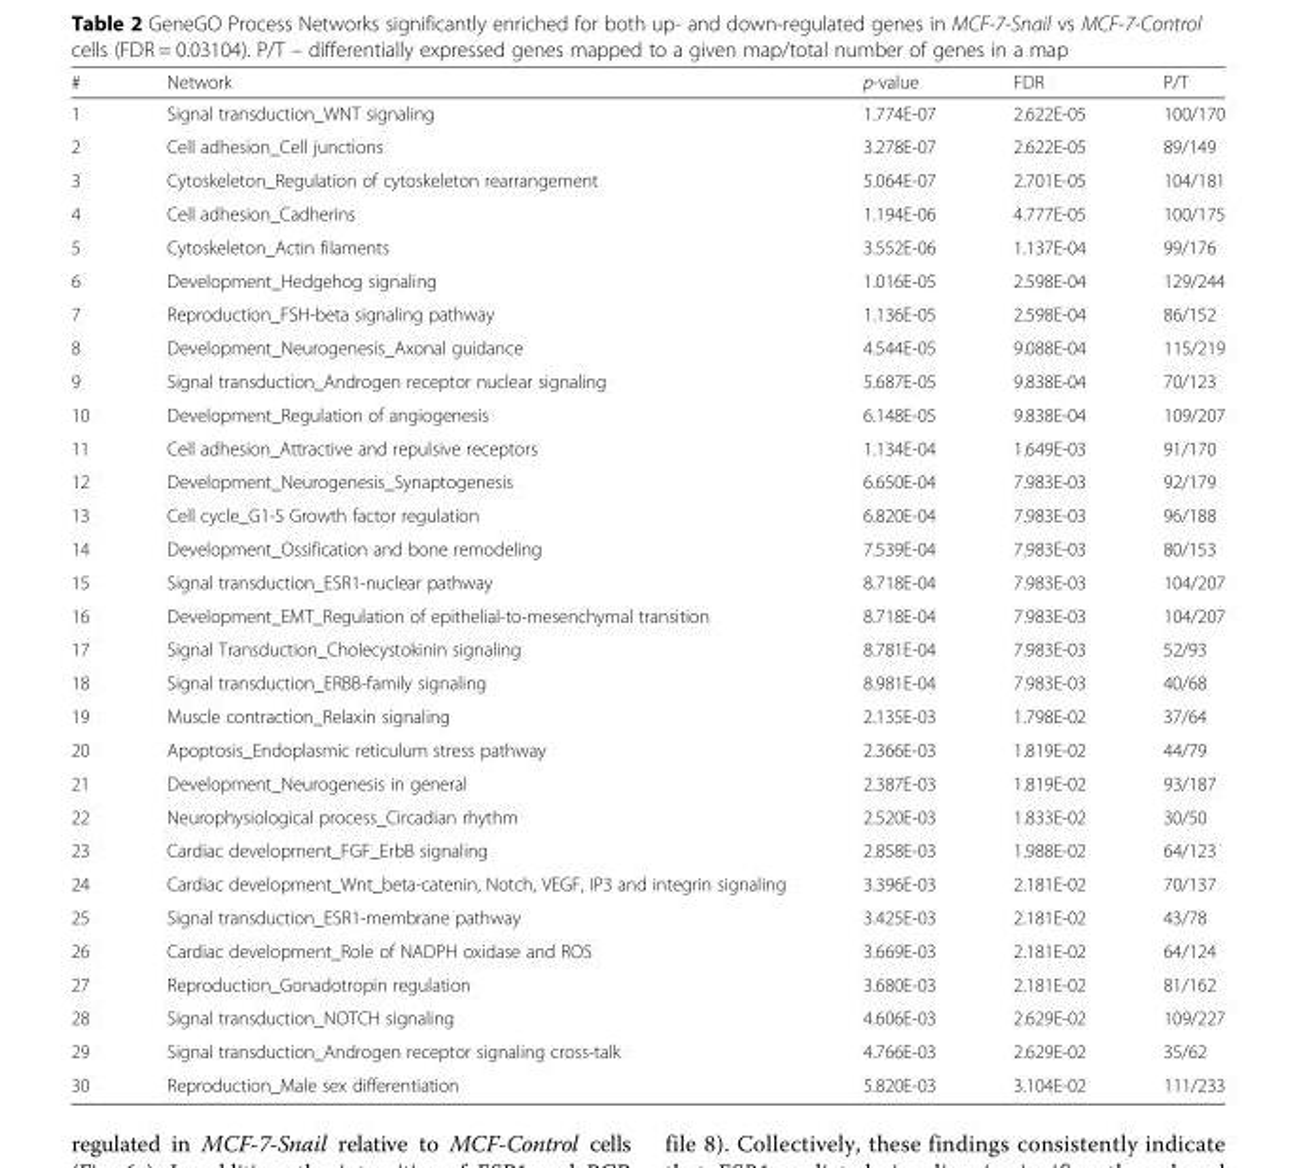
<table><thead><tr><td>#</td><td>Network</td><td>p-value</td><td>FDR</td><td>P/T</td></tr></thead><tbody><tr><td>1</td><td>Signal transduction_WNT signaling</td><td>1.774E-07</td><td>2.622E-05</td><td>100/170</td></tr><tr><td>2</td><td>Cell adhesion_Cell junctions</td><td>3.278E-07</td><td>2.622E-05</td><td>89/149</td></tr><tr><td>3</td><td>Cytoskeleton_Regulation of cytoskeleton rearrangement</td><td>5.064E-07</td><td>2.701E-05</td><td>104/181</td></tr><tr><td>4</td><td>Cell adhesion_Cadherins</td><td>1.194E-06</td><td>4.777E-05</td><td>100/175</td></tr><tr><td>5</td><td>Cytoskeleton_Actin filaments</td><td>3.552E-06</td><td>1.137E-04</td><td>99/176</td></tr><tr><td>6</td><td>Development_Hedgehog signaling</td><td>1.016E-05</td><td>2.598E-04</td><td>129/244</td></tr><tr><td>7</td><td>Reproduction_FSH-beta signaling pathway</td><td>1.136E-05</td><td>2.598E-04</td><td>86/152</td></tr><tr><td>8</td><td>Development_Neurogenesis_Axonal guidance</td><td>4.544E-05</td><td>9.088E-04</td><td>115/219</td></tr><tr><td>9</td><td>Signal transduction_Androgen receptor nuclear signaling</td><td>5.687E-05</td><td>9.838E-04</td><td>70/123</td></tr><tr><td>10</td><td>Development_Regulation of angiogenesis</td><td>6.148E-05</td><td>9.838E-04</td><td>109/207</td></tr><tr><td>11</td><td>Cell adhesion_Attractive and repulsive receptors</td><td>1.134E-04</td><td>1.649E-03</td><td>91/170</td></tr><tr><td>12</td><td>Development_Neurogenesis_Synaptogenesis</td><td>6.650E-04</td><td>7.983E-03</td><td>92/179</td></tr><tr><td>13</td><td>Cell cycle_G1-S Growth factor regulation</td><td>6.820E-04</td><td>7.983E-03</td><td>96/188</td></tr><tr><td>14</td><td>Development_Ossification and bone remodeling</td><td>7.539E-04</td><td>7.983E-03</td><td>80/153</td></tr><tr><td>15</td><td>Signal transduction_ESR1-nuclear pathway</td><td>8.718E-04</td><td>7.983E-03</td><td>104/207</td></tr><tr><td>16</td><td>Development_EMT_Regulation of epithelial-to-mesenchymal transition</td><td>8.718E-04</td><td>7.983E-03</td><td>104/207</td></tr><tr><td>17</td><td>Signal Transduction_Cholecystokinin signaling</td><td>8.781E-04</td><td>7.983E-03</td><td>52/93</td></tr><tr><td>18</td><td>Signal transduction_ERBB-family signaling</td><td>8.981E-04</td><td>7.983E-03</td><td>40/68</td></tr><tr><td>19</td><td>Muscle contraction_Relaxin signaling</td><td>2.135E-03</td><td>1.798E-02</td><td>37/64</td></tr><tr><td>20</td><td>Apoptosis_Endoplasmic reticulum stress pathway</td><td>2.366E-03</td><td>1.819E-02</td><td>44/79</td></tr><tr><td>21</td><td>Development_Neurogenesis in general</td><td>2.387E-03</td><td>1.819E-02</td><td>93/187</td></tr><tr><td>22</td><td>Neurophysiological process_Circadian rhythm</td><td>2.520E-03</td><td>1.833E-02</td><td>30/50</td></tr><tr><td>23</td><td>Cardiac development_FGF_ErbB signaling</td><td>2.858E-03</td><td>1.988E-02</td><td>64/123</td></tr><tr><td>24</td><td>Cardiac development_Wnt_beta-catenin, Notch, VEGF, IP3 and integrin signaling</td><td>3.396E-03</td><td>2.181E-02</td><td>70/137</td></tr><tr><td>25</td><td>Signal transduction_ESR1-membrane pathway</td><td>3.425E-03</td><td>2.181E-02</td><td>43/78</td></tr><tr><td>26</td><td>Cardiac development_Role of NADPH oxidase and ROS</td><td>3.669E-03</td><td>2.181E-02</td><td>64/124</td></tr><tr><td>27</td><td>Reproduction_Gonadotropin regulation</td><td>3.680E-03</td><td>2.181E-02</td><td>81/162</td></tr><tr><td>28</td><td>Signal transduction_NOTCH signaling</td><td>4.606E-03</td><td>2.629E-02</td><td>109/227</td></tr><tr><td>29</td><td>Signal transduction_Androgen receptor signaling cross-talk</td><td>4.766E-03</td><td>2.629E-02</td><td>35/62</td></tr><tr><td>30</td><td>Reproduction_Male sex differentiation</td><td>5.820E-03</td><td>3.104E-02</td><td>111/233</td></tr></tbody></table>